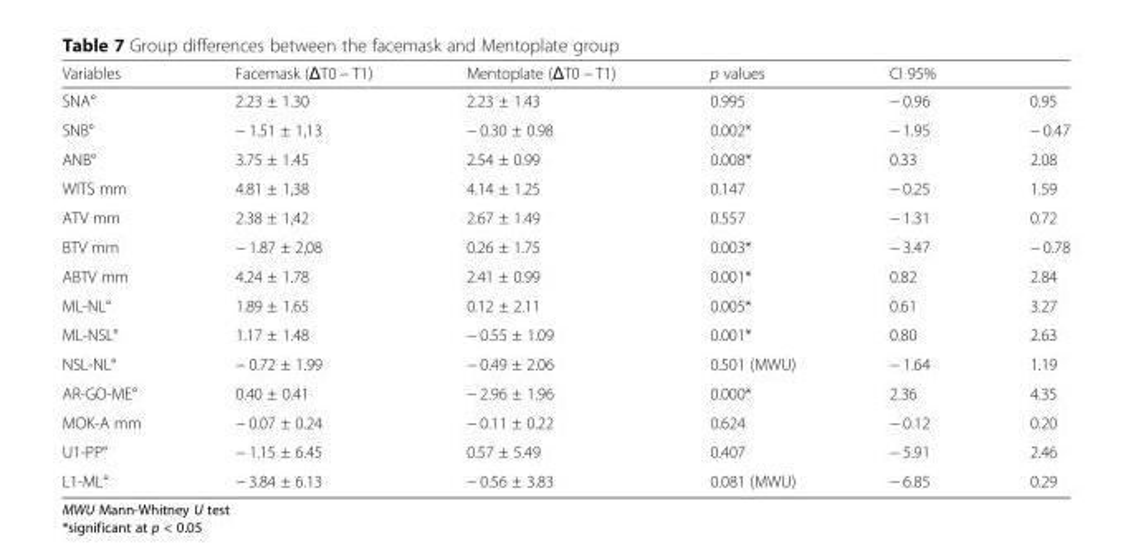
<table><thead><tr><td>Variables</td><td>Facemask (ΔT0 − T1)</td><td>Mentoplate (ΔT0 − T1)</td><td>p values</td><td>CI 95%</td><td></td></tr></thead><tbody><tr><td>SNA°</td><td>2.23 ± 1.30</td><td>2.23 ± 1.43</td><td>0.995</td><td>− 0.96</td><td>0.95</td></tr><tr><td>SNB°</td><td>− 1.51 ± 1,13</td><td>− 0.30 ± 0.98</td><td>0.002*</td><td>− 1.95</td><td>− 0.47</td></tr><tr><td>ANB°</td><td>3.75 ± 1.45</td><td>2.54 ± 0.99</td><td>0.008*</td><td>0.33</td><td>2.08</td></tr><tr><td>WITS mm</td><td>4.81 ± 1,38</td><td>4.14 ± 1.25</td><td>0.147</td><td>− 0.25</td><td>1.59</td></tr><tr><td>ATV mm</td><td>2.38 ± 1,42</td><td>2.67 ± 1.49</td><td>0.557</td><td>− 1.31</td><td>0.72</td></tr><tr><td>BTV mm</td><td>− 1.87 ± 2,08</td><td>0.26 ± 1.75</td><td>0.003*</td><td>− 3.47</td><td>− 0.78</td></tr><tr><td>ABTV mm</td><td>4.24 ± 1.78</td><td>2.41 ± 0.99</td><td>0.001*</td><td>0.82</td><td>2.84</td></tr><tr><td>ML-NL°</td><td>1.89 ± 1.65</td><td>0.12 ± 2.11</td><td>0.005*</td><td>0.61</td><td>3.27</td></tr><tr><td>ML-NSL°</td><td>1.17 ± 1.48</td><td>− 0.55 ± 1.09</td><td>0.001*</td><td>0.80</td><td>2.63</td></tr><tr><td>NSL-NL°</td><td>− 0.72 ± 1.99</td><td>− 0.49 ± 2.06</td><td>0.501 (MWU)</td><td>− 1.64</td><td>1.19</td></tr><tr><td>AR-GO-ME°</td><td>0.40 ± 0.41</td><td>− 2.96 ± 1.96</td><td>0.000*</td><td>2.36</td><td>4.35</td></tr><tr><td>MOK-A mm</td><td>− 0.07 ± 0.24</td><td>− 0.11 ± 0.22</td><td>0.624</td><td>− 0.12</td><td>0.20</td></tr><tr><td>U1-PP°</td><td>− 1.15 ± 6.45</td><td>0.57 ± 5.49</td><td>0.407</td><td>− 5.91</td><td>2.46</td></tr><tr><td>L1-ML°</td><td>− 3.84 ± 6.13</td><td>− 0.56 ± 3.83</td><td>0.081 (MWU)</td><td>− 6.85</td><td>0.29</td></tr></tbody></table>